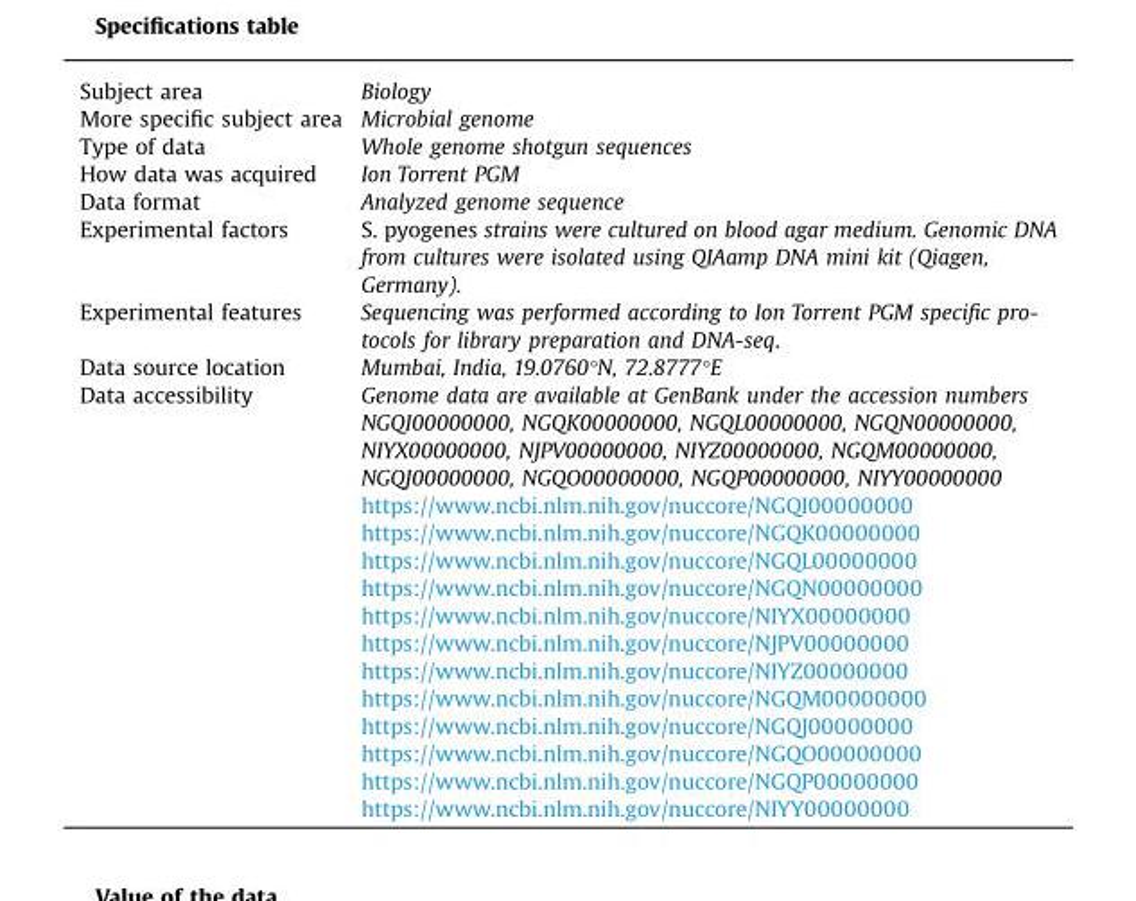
<table><tbody><tr><td>Subject area</td><td>Biology</td></tr><tr><td>More specific subject area</td><td>Microbial genome</td></tr><tr><td>Type of data</td><td>Whole genome shotgun sequences</td></tr><tr><td>How data was acquired</td><td>Ion Torrent PGM</td></tr><tr><td>Data format</td><td>Analyzed genome sequence</td></tr><tr><td>Experimental factors</td><td>S. pyogenes strains were cultured on blood agar medium. Genomic DNA from cultures were isolated using QIAamp DNA mini kit (Qiagen, Germany).</td></tr><tr><td>Experimental features</td><td>Sequencing was performed according to Ion Torrent PGM specific pro- tocols for library preparation and DNA-seq.</td></tr><tr><td>Data source location</td><td>Mumbai, India, 19.0760°N, 72.8777°E</td></tr><tr><td rowspan="14">Data accessibility</td><td>Genome data are available at GenBank under the accession numbers</td></tr><tr><td>NGQI00000000, NGQK00000000, NGQL00000000, NGQN00000000, NIYX00000000, NJPV00000000, NIYZ00000000, NGQM00000000, NGQJ00000000, NGQO00000000, NGQP00000000, NIYY00000000</td></tr><tr><td>https://www.ncbi.nlm.nih.gov/nuccore/NGQI00000000</td></tr><tr><td>https://www.ncbi.nlm.nih.gov/nuccore/NGQK00000000</td></tr><tr><td>https://www.ncbi.nlm.nih.gov/nuccore/NGQL00000000</td></tr><tr><td>https://www.ncbi.nlm.nih.gov/nuccore/NGQN00000000</td></tr><tr><td>https://www.ncbi.nlm.nih.gov/nuccore/NIYX00000000</td></tr><tr><td>https://www.ncbi.nlm.nih.gov/nuccore/NJPV00000000</td></tr><tr><td>https://www.ncbi.nlm.nih.gov/nuccore/NIYZ00000000</td></tr><tr><td>https://www.ncbi.nlm.nih.gov/nuccore/NGQM00000000</td></tr><tr><td>https://www.ncbi.nlm.nih.gov/nuccore/NGQJ00000000</td></tr><tr><td>https://www.ncbi.nlm.nih.gov/nuccore/NGQO00000000</td></tr><tr><td>https://www.ncbi.nlm.nih.gov/nuccore/NGQP00000000</td></tr><tr><td>https://www.ncbi.nlm.nih.gov/nuccore/NIYY00000000</td></tr></tbody></table>